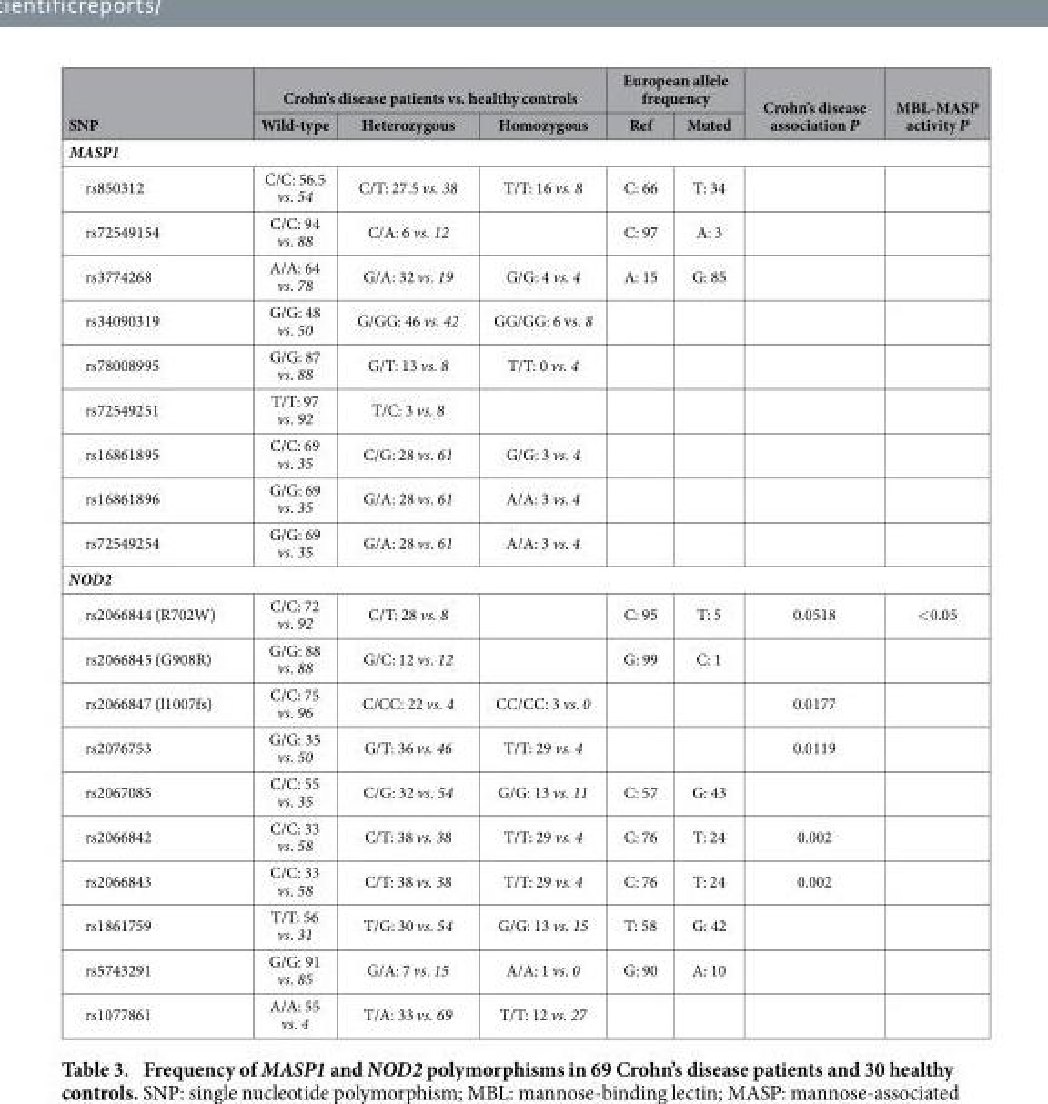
<table><thead><tr><td rowspan="2">SNP</td><td colspan="3">Crohn’s disease patients vs. healthy controls</td><td colspan="2">European allele frequency</td><td rowspan="2">Crohn’s disease association P</td><td rowspan="2">MBL-MASP activity P</td></tr><tr><td>Wild-type</td><td>Heterozygous</td><td>Homozygous</td><td>Ref</td><td>Muted</td></tr></thead><tbody><tr><td colspan="8">MASP1</td></tr><tr><td>rs850312</td><td>C/C: 56.5 vs. 54</td><td>C/T: 27.5 vs. 38</td><td>T/T: 16 vs. 8</td><td>C: 66</td><td>T: 34</td><td></td><td></td></tr><tr><td>rs72549154</td><td>C/C: 94 vs. 88</td><td>C/A: 6 vs. 12</td><td></td><td>C: 97</td><td>A: 3</td><td></td><td></td></tr><tr><td>rs3774268</td><td>A/A: 64 vs. 78</td><td>G/A: 32 vs. 19</td><td>G/G: 4 vs. 4</td><td>A: 15</td><td>G: 85</td><td></td><td></td></tr><tr><td>rs34090319</td><td>G/G: 48 vs. 50</td><td>G/GG: 46 vs. 42</td><td>GG/GG: 6 vs. 8</td><td></td><td></td><td></td><td></td></tr><tr><td>rs78008995</td><td>G/G: 87 vs. 88</td><td>G/T: 13 vs. 8</td><td>T/T: 0 vs. 4</td><td></td><td></td><td></td><td></td></tr><tr><td>rs72549251</td><td>T/T: 97 vs. 92</td><td>T/C: 3 vs. 8</td><td></td><td></td><td></td><td></td><td></td></tr><tr><td>rs16861895</td><td>C/C: 69 vs. 35</td><td>C/G: 28 vs. 61</td><td>G/G: 3 vs. 4</td><td></td><td></td><td></td><td></td></tr><tr><td>rs16861896</td><td>G/G: 69 vs. 35</td><td>G/A: 28 vs. 61</td><td>A/A: 3 vs. 4</td><td></td><td></td><td></td><td></td></tr><tr><td>rs72549254</td><td>G/G: 69 vs. 35</td><td>G/A: 28 vs. 61</td><td>A/A: 3 vs. 4</td><td></td><td></td><td></td><td></td></tr><tr><td colspan="8">NOD2</td></tr><tr><td>rs2066844 (R702W)</td><td>C/C: 72 vs. 92</td><td>C/T: 28 vs. 8</td><td></td><td>C: 95</td><td>T: 5</td><td>0.0518</td><td>&lt; 0.05</td></tr><tr><td>rs2066845 (G908R)</td><td>G/G: 88 vs. 88</td><td>G/C: 12 vs. 12</td><td></td><td>G: 99</td><td>C: 1</td><td></td><td></td></tr><tr><td>rs2066847 (l1007fs)</td><td>C/C: 75 vs. 96</td><td>C/CC: 22 vs. 4</td><td>CC/CC: 3 vs. 0</td><td></td><td></td><td>0.0177</td><td></td></tr><tr><td>rs2076753</td><td>G/G: 35 vs. 50</td><td>G/T: 36 vs. 46</td><td>T/T: 29 vs. 4</td><td></td><td></td><td>0.0119</td><td></td></tr><tr><td>rs2067085</td><td>C/C: 55 vs. 35</td><td>C/G: 32 vs. 54</td><td>G/G: 13 vs. 11</td><td>C: 57</td><td>G: 43</td><td></td><td></td></tr><tr><td>rs2066842</td><td>C/C: 33 vs. 58</td><td>C/T: 38 vs. 38</td><td>T/T: 29 vs. 4</td><td>C: 76</td><td>T: 24</td><td>0.002</td><td></td></tr><tr><td>rs2066843</td><td>C/C: 33 vs. 58</td><td>C/T: 38 vs. 38</td><td>T/T: 29 vs. 4</td><td>C: 76</td><td>T: 24</td><td>0.002</td><td></td></tr><tr><td>rs1861759</td><td>T/T: 56 vs. 31</td><td>T/G: 30 vs. 54</td><td>G/G: 13 vs. 15</td><td>T: 58</td><td>G: 42</td><td></td><td></td></tr><tr><td>rs5743291</td><td>G/G: 91 vs. 85</td><td>G/A: 7 vs. 15</td><td>A/A: 1 vs. 0</td><td>G: 90</td><td>A: 10</td><td></td><td></td></tr><tr><td>rs1077861</td><td>A/A: 55 vs. 4</td><td>T/A: 33 vs. 69</td><td>T/T: 12 vs. 27</td><td></td><td></td><td></td><td></td></tr></tbody></table>